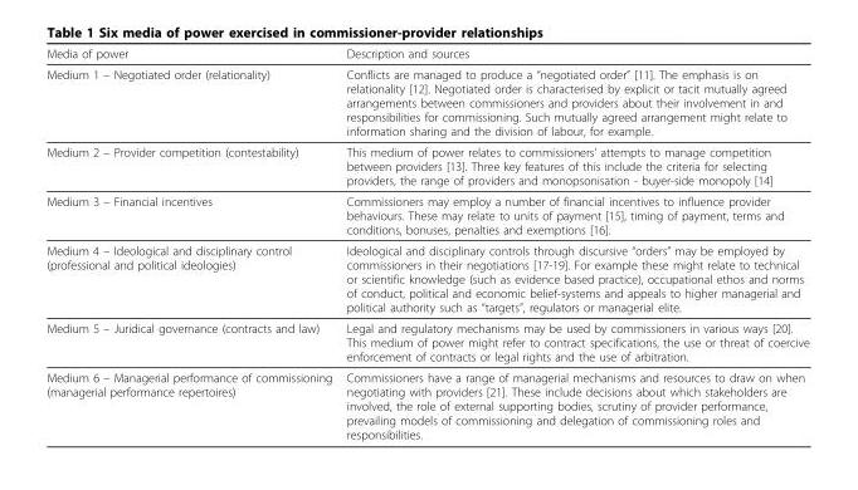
<table><thead><tr><td>Media of power</td><td>Description and sources</td></tr></thead><tbody><tr><td>Medium 1 – Negotiated order (relationality)</td><td>Conflicts are managed to produce a “negotiated order” [11]. The emphasis is on relationality [12]. Negotiated order is characterised by explicit or tacit mutually agreed arrangements between commissioners and providers about their involvement in and responsibilities for commissioning. Such mutually agreed arrangement might relate to information sharing and the division of labour, for example.</td></tr><tr><td>Medium 2 – Provider competition (contestability)</td><td>This medium of power relates to commissioners’ attempts to manage competition between providers [13]. Three key features of this include the criteria for selecting providers, the range of providers and monopsonisation - buyer-side monopoly [14]</td></tr><tr><td>Medium 3 – Financial incentives</td><td>Commissioners may employ a number of financial incentives to influence provider behaviours. These may relate to units of payment [15], timing of payment, terms and conditions, bonuses, penalties and exemptions [16].</td></tr><tr><td>Medium 4 – Ideological and disciplinary control (professional and political ideologies)</td><td>Ideological and disciplinary controls through discursive “orders” may be employed by commissioners in their negotiations [17-19]. For example these might relate to technical or scientific knowledge (such as evidence based practice), occupational ethos and norms of conduct, political and economic belief-systems and appeals to higher managerial and political authority such as “targets”, regulators or managerial elite.</td></tr><tr><td>Medium 5 – Juridical governance (contracts and law)</td><td>Legal and regulatory mechanisms may be used by commissioners in various ways [20]. This medium of power might refer to contract specifications, the use or threat of coercive enforcement of contracts or legal rights and the use of arbitration.</td></tr><tr><td>Medium 6 – Managerial performance of commissioning (managerial performance repertoires)</td><td>Commissioners have a range of managerial mechanisms and resources to draw on when negotiating with providers [21]. These include decisions about which stakeholders are involved, the role of external supporting bodies, scrutiny of provider performance, prevailing models of commissioning and delegation of commissioning roles and responsibilities.</td></tr></tbody></table>